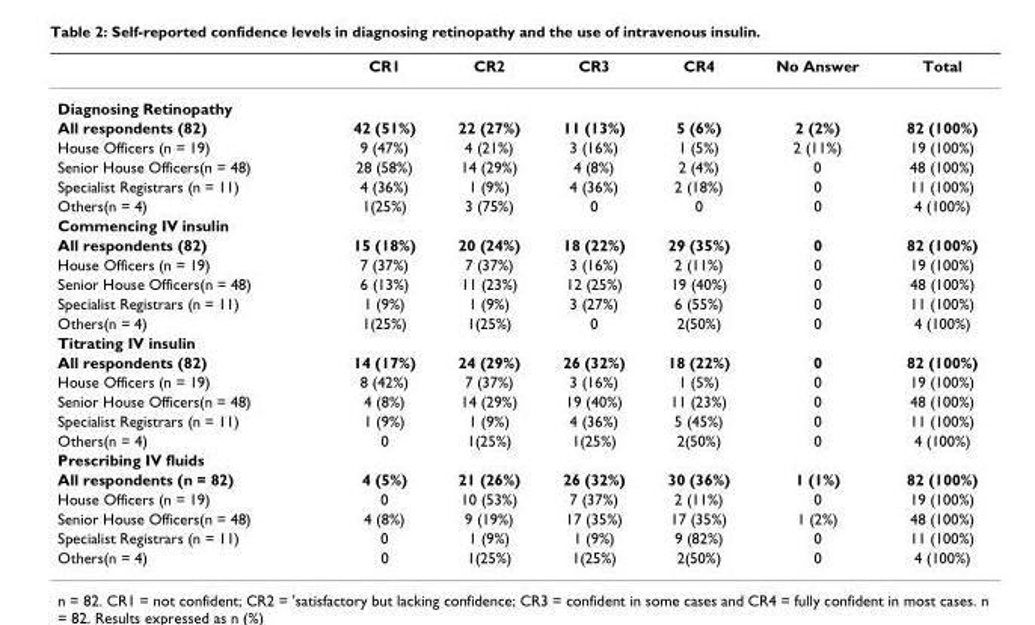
<table><thead><tr><td></td><td>CR1</td><td>CR2</td><td>CR3</td><td>CR4</td><td>No Answer</td><td>Total</td></tr></thead><tbody><tr><td colspan="7">Diagnosing Retinopathy</td></tr><tr><td>All respondents (82)</td><td>42 (51%)</td><td>22 (27%)</td><td>11 (13%)</td><td>5 (6%)</td><td>2 (2%)</td><td>82 (100%)</td></tr><tr><td>House Officers (n = 19)</td><td>9 (47%)</td><td>4 (21%)</td><td>3 (16%)</td><td>1 (5%)</td><td>2 (11%)</td><td>19 (100%)</td></tr><tr><td>Senior House Officers(n = 48)</td><td>28 (58%)</td><td>14 (29%)</td><td>4 (8%)</td><td>2 (4%)</td><td>0</td><td>48 (100%)</td></tr><tr><td>Specialist Registrars (n = 11)</td><td>4 (36%)</td><td>1 (9%)</td><td>4 (36%)</td><td>2 (18%)</td><td>0</td><td>11 (100%)</td></tr><tr><td>Others(n = 4)</td><td>1(25%)</td><td>3 (75%)</td><td>0</td><td>0</td><td>0</td><td>4 (100%)</td></tr><tr><td colspan="7">Commencing IV insulin</td></tr><tr><td>All respondents (82)</td><td>15 (18%)</td><td>20 (24%)</td><td>18 (22%)</td><td>29 (35%)</td><td>0</td><td>82 (100%)</td></tr><tr><td>House Officers (n = 19)</td><td>7 (37%)</td><td>7 (37%)</td><td>3 (16%)</td><td>2 (11%)</td><td>0</td><td>19 (100%)</td></tr><tr><td>Senior House Officers(n = 48)</td><td>6 (13%)</td><td>11 (23%)</td><td>12 (25%)</td><td>19 (40%)</td><td>0</td><td>48 (100%)</td></tr><tr><td>Specialist Registrars (n = 11)</td><td>1 (9%)</td><td>1 (9%)</td><td>3 (27%)</td><td>6 (55%)</td><td>0</td><td>11 (100%)</td></tr><tr><td>Others(n = 4)</td><td>1(25%)</td><td>1(25%)</td><td>0</td><td>2(50%)</td><td>0</td><td>4 (100%)</td></tr><tr><td colspan="7">Titrating IV insulin</td></tr><tr><td>All respondents (82)</td><td>14 (17%)</td><td>24 (29%)</td><td>26 (32%)</td><td>18 (22%)</td><td>0</td><td>82 (100%)</td></tr><tr><td>House Officers (n = 19)</td><td>8 (42%)</td><td>7 (37%)</td><td>3 (16%)</td><td>1 (5%)</td><td>0</td><td>19 (100%)</td></tr><tr><td>Senior House Officers(n = 48)</td><td>4 (8%)</td><td>14 (29%)</td><td>19 (40%)</td><td>11 (23%)</td><td>0</td><td>48 (100%)</td></tr><tr><td>Specialist Registrars (n = 11)</td><td>1 (9%)</td><td>1 (9%)</td><td>4 (36%)</td><td>5 (45%)</td><td>0</td><td>11 (100%)</td></tr><tr><td>Others(n = 4)</td><td>0</td><td>1(25%)</td><td>1(25%)</td><td>2(50%)</td><td>0</td><td>4 (100%)</td></tr><tr><td colspan="7">Prescribing IV fluids</td></tr><tr><td>All respondents (n = 82)</td><td>4 (5%)</td><td>21 (26%)</td><td>26 (32%)</td><td>30 (36%)</td><td>1 (1%)</td><td>82 (100%)</td></tr><tr><td>House Officers (n = 19)</td><td>0</td><td>10 (53%)</td><td>7 (37%)</td><td>2 (11%)</td><td>0</td><td>19 (100%)</td></tr><tr><td>Senior House Officers(n = 48)</td><td>4 (8%)</td><td>9 (19%)</td><td>17 (35%)</td><td>17 (35%)</td><td>1 (2%)</td><td>48 (100%)</td></tr><tr><td>Specialist Registrars (n = 11)</td><td>0</td><td>1 (9%)</td><td>1 (9%)</td><td>9 (82%)</td><td>0</td><td>11 (100%)</td></tr><tr><td>Others(n = 4)</td><td>0</td><td>1(25%)</td><td>1(25%)</td><td>2(50%)</td><td>0</td><td>4 (100%)</td></tr></tbody></table>